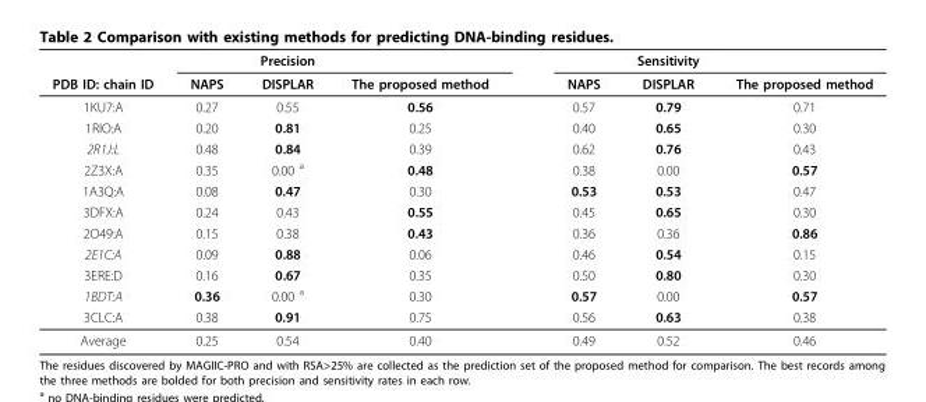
<table><thead><tr><td rowspan="2">PDB ID: chain ID</td><td rowspan="2">NAPS</td><td rowspan="2">Precision DISPLAR</td><td rowspan="2">The proposed method</td><td rowspan="2">NAPS</td><td rowspan="2">Sensitivity DISPLAR</td><td rowspan="2">The proposed method</td></tr><tr></tr></thead><tbody><tr><td>1KU7:A</td><td>0.27</td><td>0.55</td><td>0.56</td><td>0.57</td><td>0.79</td><td>0.71</td></tr><tr><td>1RIO:A</td><td>0.20</td><td>0.81</td><td>0.25</td><td>0.40</td><td>0.65</td><td>0.30</td></tr><tr><td>2R1J:L</td><td>0.48</td><td>0.84</td><td>0.39</td><td>0.62</td><td>0.76</td><td>0.43</td></tr><tr><td>2Z3X:A</td><td>0.35</td><td>0.00 <sup>a</sup></td><td>0.48</td><td>0.38</td><td>0.00</td><td>0.57</td></tr><tr><td>1A3Q:A</td><td>0.08</td><td>0.47</td><td>0.30</td><td>0.53</td><td>0.53</td><td>0.47</td></tr><tr><td>3DFX:A</td><td>0.24</td><td>0.43</td><td>0.55</td><td>0.45</td><td>0.65</td><td>0.30</td></tr><tr><td>2O49:A</td><td>0.15</td><td>0.38</td><td>0.43</td><td>0.36</td><td>0.36</td><td>0.86</td></tr><tr><td>2E1C:A</td><td>0.09</td><td>0.88</td><td>0.06</td><td>0.46</td><td>0.54</td><td>0.15</td></tr><tr><td>3ERE:D</td><td>0.16</td><td>0.67</td><td>0.35</td><td>0.50</td><td>0.80</td><td>0.30</td></tr><tr><td>1BDT:A</td><td>0.36</td><td>0.00 <sup>a</sup></td><td>0.30</td><td>0.57</td><td>0.00</td><td>0.57</td></tr><tr><td>3CLC:A</td><td>0.38</td><td>0.91</td><td>0.75</td><td>0.56</td><td>0.63</td><td>0.38</td></tr><tr><td>Average</td><td>0.25</td><td>0.54</td><td>0.40</td><td>0.49</td><td>0.52</td><td>0.46</td></tr></tbody></table>